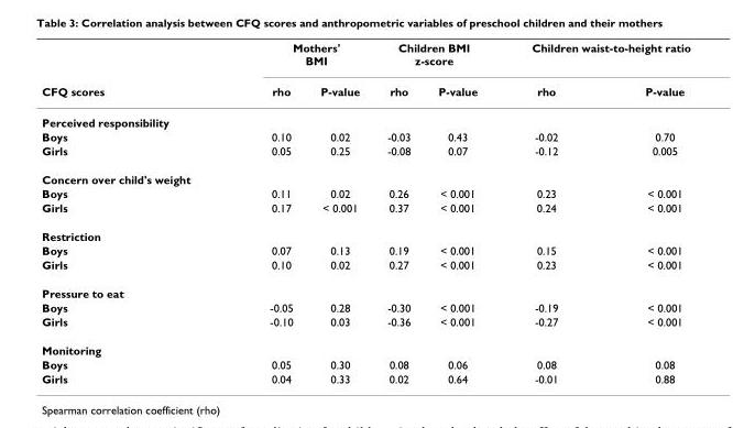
<table><thead><tr><td rowspan="2">CFQ scores</td><td colspan="2">Mothers&#x27; BMI</td><td colspan="2">Children BMI z-score</td><td colspan="2">Children waist-to-height ratio</td></tr><tr><td>rho</td><td>P-value</td><td>rho</td><td>P-value</td><td>rho</td><td>P-value</td></tr></thead><tbody><tr><td colspan="7">Perceived responsibility</td></tr><tr><td>Boys</td><td>0.10</td><td>0.02</td><td>-0.03</td><td>0.43</td><td>-0.02</td><td>0.70</td></tr><tr><td>Girls</td><td>0.05</td><td>0.25</td><td>-0.08</td><td>0.07</td><td>-0.12</td><td>0.005</td></tr><tr><td colspan="7">Concern over child&#x27;s weight</td></tr><tr><td>Boys</td><td>0.11</td><td>0.02</td><td>0.26</td><td>&lt; 0.001</td><td>0.23</td><td>&lt; 0.001</td></tr><tr><td>Girls</td><td>0.17</td><td>&lt; 0.001</td><td>0.37</td><td>&lt; 0.001</td><td>0.24</td><td>&lt; 0.001</td></tr><tr><td colspan="7">Restriction</td></tr><tr><td>Boys</td><td>0.07</td><td>0.13</td><td>0.19</td><td>&lt; 0.001</td><td>0.15</td><td>&lt; 0.001</td></tr><tr><td>Girls</td><td>0.10</td><td>0.02</td><td>0.27</td><td>&lt; 0.001</td><td>0.23</td><td>&lt; 0.001</td></tr><tr><td colspan="7">Pressure to eat</td></tr><tr><td>Boys</td><td>-0.05</td><td>0.28</td><td>-0.30</td><td>&lt; 0.001</td><td>-0.19</td><td>&lt; 0.001</td></tr><tr><td>Girls</td><td>-0.10</td><td>0.03</td><td>-0.36</td><td>&lt; 0.001</td><td>-0.27</td><td>&lt; 0.001</td></tr><tr><td colspan="7">Monitoring</td></tr><tr><td>Boys</td><td>0.05</td><td>0.30</td><td>0.08</td><td>0.06</td><td>0.08</td><td>0.08</td></tr><tr><td>Girls</td><td>0.04</td><td>0.33</td><td>0.02</td><td>0.64</td><td>-0.01</td><td>0.88</td></tr></tbody></table>